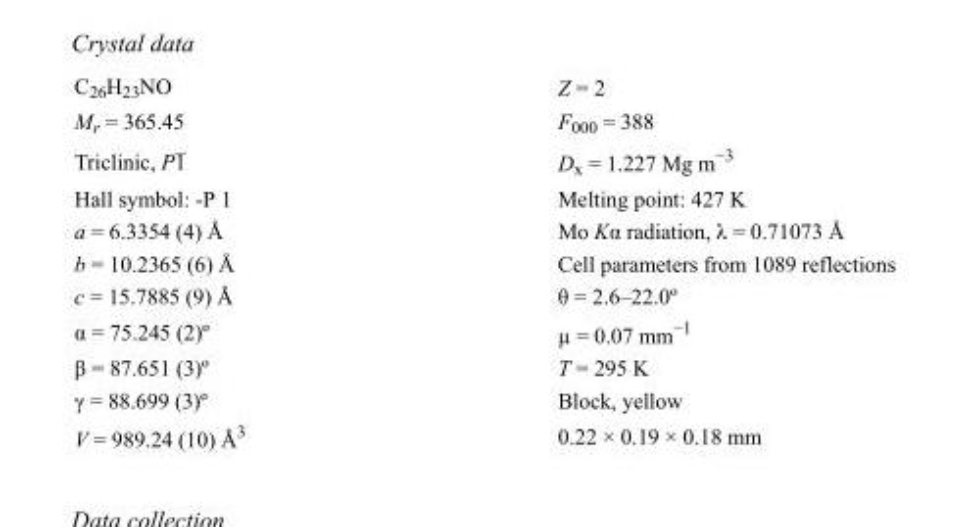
<table><tbody><tr><td>C<sub>26</sub>H<sub>23</sub>NO</td><td>Z = 2</td></tr><tr><td>M<sub>r</sub> = 365.45</td><td>F000 = 388</td></tr><tr><td>Triclinic, P1</td><td>D<sub>x</sub> = 1.227 Mg m<sup>−3</sup></td></tr><tr><td>Hall symbol: -P 1</td><td>Melting point: 427 K</td></tr><tr><td>a = 6.3354 (4) Å</td><td>Mo Kα radiation, λ = 0.71073 Å</td></tr><tr><td>b = 10.2365 (6) Å</td><td>Cell parameters from 1089 reflections</td></tr><tr><td>c = 15.7885 (9) Å</td><td>θ = 2.6–22.0º</td></tr><tr><td>α = 75.245 (2)º</td><td>µ = 0.07 mm<sup>−1</sup></td></tr><tr><td>β = 87.651 (3)º</td><td>T = 295 K</td></tr><tr><td>γ = 88.699 (3)º</td><td>Block, yellow</td></tr><tr><td>V = 989.24 (10) Å<sup>3</sup></td><td>0.22 × 0.19 × 0.18 mm</td></tr></tbody></table>